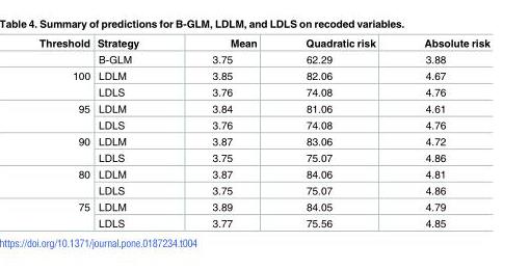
<table><thead><tr><td>Threshold</td><td>Strategy</td><td>Mean</td><td>Quadratic risk</td><td>Absolute risk</td></tr></thead><tbody><tr><td></td><td>B-GLM</td><td>3.75</td><td>62.29</td><td>3.88</td></tr><tr><td rowspan="2">100</td><td>LDLM</td><td>3.85</td><td>82.06</td><td>4.67</td></tr><tr><td>LDLS</td><td>3.76</td><td>74.08</td><td>4.76</td></tr><tr><td rowspan="2">95</td><td>LDLM</td><td>3.84</td><td>81.06</td><td>4.61</td></tr><tr><td>LDLS</td><td>3.76</td><td>74.08</td><td>4.76</td></tr><tr><td rowspan="2">90</td><td>LDLM</td><td>3.87</td><td>83.06</td><td>4.72</td></tr><tr><td>LDLS</td><td>3.75</td><td>75.07</td><td>4.86</td></tr><tr><td rowspan="2">80</td><td>LDLM</td><td>3.87</td><td>84.06</td><td>4.81</td></tr><tr><td>LDLS</td><td>3.75</td><td>75.07</td><td>4.86</td></tr><tr><td rowspan="2">75</td><td>LDLM</td><td>3.89</td><td>84.05</td><td>4.79</td></tr><tr><td>LDLS</td><td>3.77</td><td>75.56</td><td>4.85</td></tr></tbody></table>